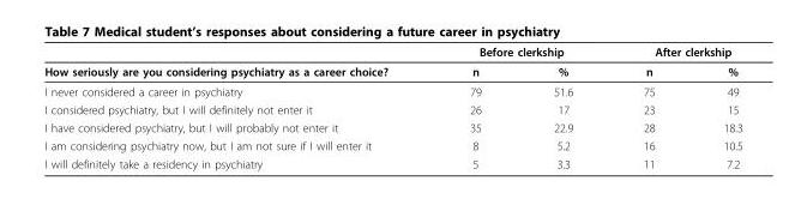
<table><thead><tr><td rowspan="2">How seriously are you considering psychiatry as a career choice?</td><td colspan="2">Before clerkship</td><td colspan="2">After clerkship</td></tr><tr><td>n</td><td>%</td><td>n</td><td>%</td></tr></thead><tbody><tr><td>I never considered a career in psychiatry</td><td>79</td><td>51.6</td><td>75</td><td>49</td></tr><tr><td>I considered psychiatry, but I will definitely not enter it</td><td>26</td><td>17</td><td>23</td><td>15</td></tr><tr><td>I have considered psychiatry, but I will probably not enter it</td><td>35</td><td>22.9</td><td>28</td><td>18.3</td></tr><tr><td>I am considering psychiatry now, but I am not sure if I will enter it</td><td>8</td><td>5.2</td><td>16</td><td>10.5</td></tr><tr><td>I will definitely take a residency in psychiatry</td><td>5</td><td>3.3</td><td>11</td><td>7.2</td></tr></tbody></table>